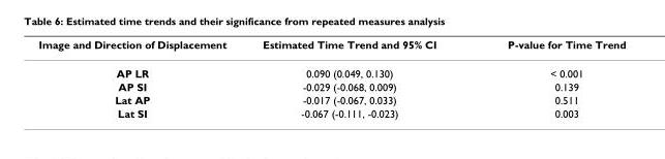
<table><thead><tr><td>Image and Direction of Displacement</td><td>Estimated Time Trend and 95% CI</td><td>P-value for Time Trend</td></tr></thead><tbody><tr><td>AP LR</td><td>0.090 (0.049, 0.130)</td><td>&lt; 0.001</td></tr><tr><td>AP SI</td><td>-0.029 (-0.068, 0.009)</td><td>0.139</td></tr><tr><td>Lat AP</td><td>-0.017 (-0.067, 0.033)</td><td>0.511</td></tr><tr><td>Lat SI</td><td>-0.067 (-0.111, -0.023)</td><td>0.003</td></tr></tbody></table>